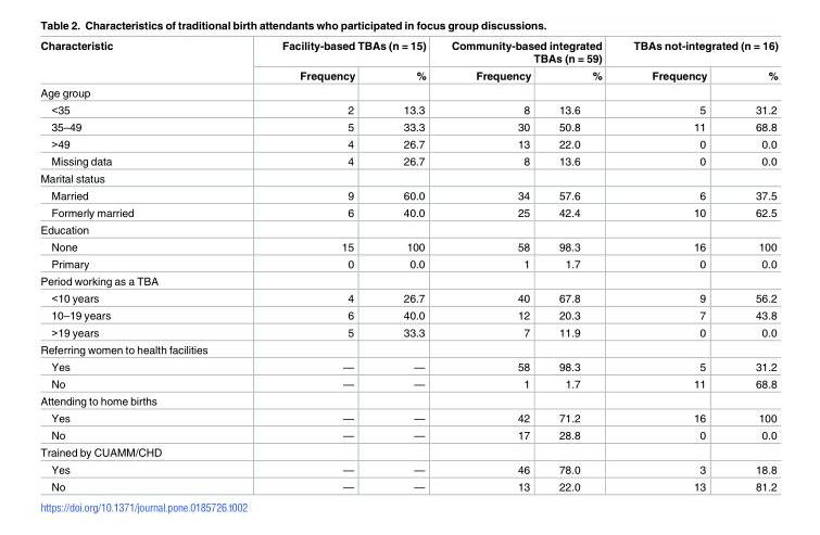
<table><thead><tr><td rowspan="2">Characteristic</td><td colspan="2">Facility-based TBAs (n = 15)</td><td colspan="2">Community-based integrated TBAs (n = 59)</td><td colspan="2">TBAs not-integrated (n = 16)</td></tr><tr><td>Frequency</td><td>%</td><td>Frequency</td><td>%</td><td>Frequency</td><td>%</td></tr></thead><tbody><tr><td colspan="7">Age group</td></tr><tr><td>&lt;35</td><td>2</td><td>13.3</td><td>8</td><td>13.6</td><td>5</td><td>31.2</td></tr><tr><td>35–49</td><td>5</td><td>33.3</td><td>30</td><td>50.8</td><td>11</td><td>68.8</td></tr><tr><td>&gt;49</td><td>4</td><td>26.7</td><td>13</td><td>22.0</td><td>0</td><td>0.0</td></tr><tr><td>Missing data</td><td>4</td><td>26.7</td><td>8</td><td>13.6</td><td>0</td><td>0.0</td></tr><tr><td colspan="7">Marital status</td></tr><tr><td>Married</td><td>9</td><td>60.0</td><td>34</td><td>57.6</td><td>6</td><td>37.5</td></tr><tr><td>Formerly married</td><td>6</td><td>40.0</td><td>25</td><td>42.4</td><td>10</td><td>62.5</td></tr><tr><td colspan="7">Education</td></tr><tr><td>None</td><td>15</td><td>100</td><td>58</td><td>98.3</td><td>16</td><td>100</td></tr><tr><td>Primary</td><td>0</td><td>0.0</td><td>1</td><td>1.7</td><td>0</td><td>0.0</td></tr><tr><td colspan="7">Period working as a TBA</td></tr><tr><td>&lt;10 years</td><td>4</td><td>26.7</td><td>40</td><td>67.8</td><td>9</td><td>56.2</td></tr><tr><td>10–19 years</td><td>6</td><td>40.0</td><td>12</td><td>20.3</td><td>7</td><td>43.8</td></tr><tr><td>&gt;19 years</td><td>5</td><td>33.3</td><td>7</td><td>11.9</td><td>0</td><td>0.0</td></tr><tr><td colspan="7">Referring women to health facilities</td></tr><tr><td>Yes</td><td>—</td><td>—</td><td>58</td><td>98.3</td><td>5</td><td>31.2</td></tr><tr><td>No</td><td>—</td><td>—</td><td>1</td><td>1.7</td><td>11</td><td>68.8</td></tr><tr><td colspan="7">Attending to home births</td></tr><tr><td>Yes</td><td>—</td><td>—</td><td>42</td><td>71.2</td><td>16</td><td>100</td></tr><tr><td>No</td><td>—</td><td>—</td><td>17</td><td>28.8</td><td>0</td><td>0.0</td></tr><tr><td colspan="7">Trained by CUAMM/CHD</td></tr><tr><td>Yes</td><td>—</td><td>—</td><td>46</td><td>78.0</td><td>3</td><td>18.8</td></tr><tr><td>No</td><td>—</td><td>—</td><td>13</td><td>22.0</td><td>13</td><td>81.2</td></tr></tbody></table>